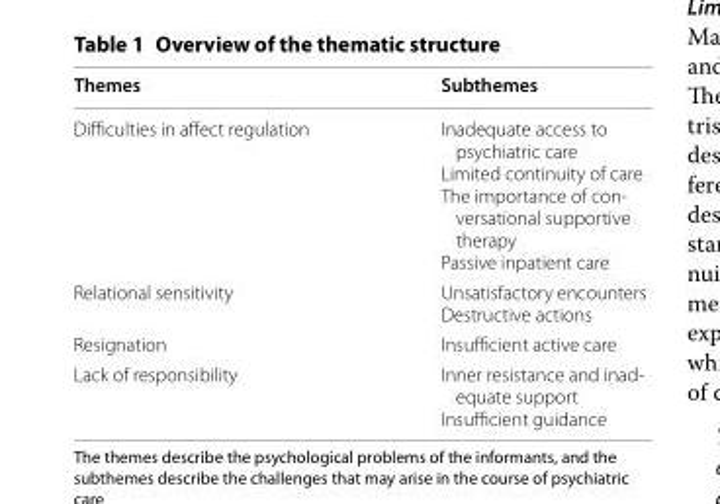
<table><thead><tr><td>Themes</td><td>Subthemes</td></tr></thead><tbody><tr><td>Difficulties in affect regulation</td><td>Inadequate access to psychiatric care Limited continuity of care The importance of con- versational supportive therapy Passive inpatient care</td></tr><tr><td>Relational sensitivity</td><td>Unsatisfactory encounters Destructive actions</td></tr><tr><td>Resignation</td><td>Insufficient active care</td></tr><tr><td>Lack of responsibility</td><td>Inner resistance and inad- equate support Insufficient guidance</td></tr></tbody></table>